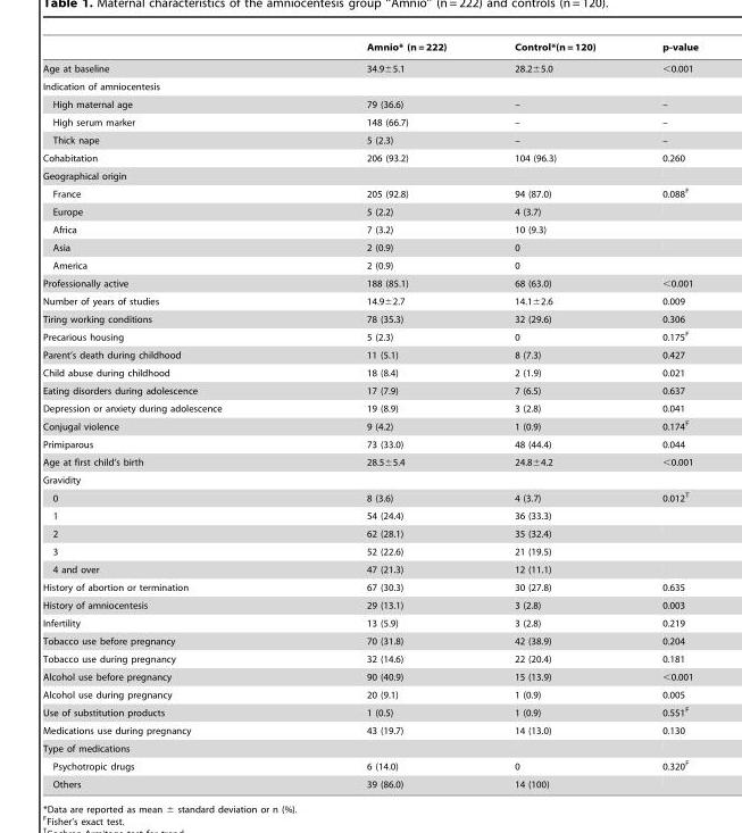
<table><thead><tr><td></td><td>Amnio* (n = 222)</td><td>Control*(n = 120)</td><td>p-value</td></tr></thead><tbody><tr><td>Age at baseline</td><td>34.9±5.1</td><td>28.2±5.0</td><td>&lt;0.001</td></tr><tr><td colspan="4">Indication of amniocentesis</td></tr><tr><td>High maternal age</td><td>79 (36.6)</td><td>–</td><td>–</td></tr><tr><td>High serum marker</td><td>148 (66.7)</td><td>–</td><td>–</td></tr><tr><td>Thick nape</td><td>5 (2.3)</td><td>–</td><td>–</td></tr><tr><td>Cohabitation</td><td>206 (93.2)</td><td>104 (96.3)</td><td>0.260</td></tr><tr><td colspan="4">Geographical origin</td></tr><tr><td>France</td><td>205 (92.8)</td><td>94 (87.0)</td><td>0.088<sup>F</sup></td></tr><tr><td>Europe</td><td>5 (2.2)</td><td>4 (3.7)</td><td></td></tr><tr><td>Africa</td><td>7 (3.2)</td><td>10 (9.3)</td><td></td></tr><tr><td>Asia</td><td>2 (0.9)</td><td>0</td><td></td></tr><tr><td>America</td><td>2 (0.9)</td><td>0</td><td></td></tr><tr><td>Professionally active</td><td>188 (85.1)</td><td>68 (63.0)</td><td>&lt;0.001</td></tr><tr><td>Number of years of studies</td><td>14.9±2.7</td><td>14.1±2.6</td><td>0.009</td></tr><tr><td>Tiring working conditions</td><td>78 (35.3)</td><td>32 (29.6)</td><td>0.306</td></tr><tr><td>Precarious housing</td><td>5 (2.3)</td><td>0</td><td>0.175<sup>F</sup></td></tr><tr><td>Parent’s death during childhood</td><td>11 (5.1)</td><td>8 (7.3)</td><td>0.427</td></tr><tr><td>Child abuse during childhood</td><td>18 (8.4)</td><td>2 (1.9)</td><td>0.021</td></tr><tr><td>Eating disorders during adolescence</td><td>17 (7.9)</td><td>7 (6.5)</td><td>0.637</td></tr><tr><td>Depression or anxiety during adolescence</td><td>19 (8.9)</td><td>3 (2.8)</td><td>0.041</td></tr><tr><td>Conjugal violence</td><td>9 (4.2)</td><td>1 (0.9)</td><td>0.174<sup>F</sup></td></tr><tr><td>Primiparous</td><td>73 (33.0)</td><td>48 (44.4)</td><td>0.044</td></tr><tr><td>Age at first child’s birth</td><td>28.5±5.4</td><td>24.8±4.2</td><td>&lt;0.001</td></tr><tr><td colspan="4">Gravidity</td></tr><tr><td>0</td><td>8 (3.6)</td><td>4 (3.7)</td><td>0.012<sup>T</sup></td></tr><tr><td>1</td><td>54 (24.4)</td><td>36 (33.3)</td><td></td></tr><tr><td>2</td><td>62 (28.1)</td><td>35 (32.4)</td><td></td></tr><tr><td>3</td><td>52 (22.6)</td><td>21 (19.5)</td><td></td></tr><tr><td>4 and over</td><td>47 (21.3)</td><td>12 (11.1)</td><td></td></tr><tr><td>History of abortion or termination</td><td>67 (30.3)</td><td>30 (27.8)</td><td>0.635</td></tr><tr><td>History of amniocentesis</td><td>29 (13.1)</td><td>3 (2.8)</td><td>0.003</td></tr><tr><td>Infertility</td><td>13 (5.9)</td><td>3 (2.8)</td><td>0.219</td></tr><tr><td>Tobacco use before pregnancy</td><td>70 (31.8)</td><td>42 (38.9)</td><td>0.204</td></tr><tr><td>Tobacco use during pregnancy</td><td>32 (14.6)</td><td>22 (20.4)</td><td>0.181</td></tr><tr><td>Alcohol use before pregnancy</td><td>90 (40.9)</td><td>15 (13.9)</td><td>&lt;0.001</td></tr><tr><td>Alcohol use during pregnancy</td><td>20 (9.1)</td><td>1 (0.9)</td><td>0.005</td></tr><tr><td>Use of substitution products</td><td>1 (0.5)</td><td>1 (0.9)</td><td>0.551<sup>F</sup></td></tr><tr><td>Medications use during pregnancy</td><td>43 (19.7)</td><td>14 (13.0)</td><td>0.130</td></tr><tr><td colspan="4">Type of medications</td></tr><tr><td>Psychotropic drugs</td><td>6 (14.0)</td><td>0</td><td>0.320<sup>F</sup></td></tr><tr><td>Others</td><td>39 (86.0)</td><td>14 (100)</td><td></td></tr></tbody></table>